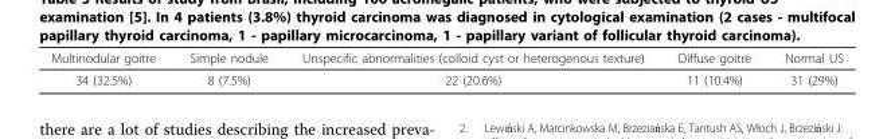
<table><thead><tr><td>Multinodular goitre</td><td>Simple nodule</td><td>Unspecific abnormalities (colloid cyst or heterogenous texture)</td><td>Diffuse goitre</td><td>Normal US</td></tr></thead><tbody><tr><td>34 (32.5%)</td><td>8 (7.5%)</td><td>22 (20.6%)</td><td>11 (10.4%)</td><td>31 (29%)</td></tr></tbody></table>